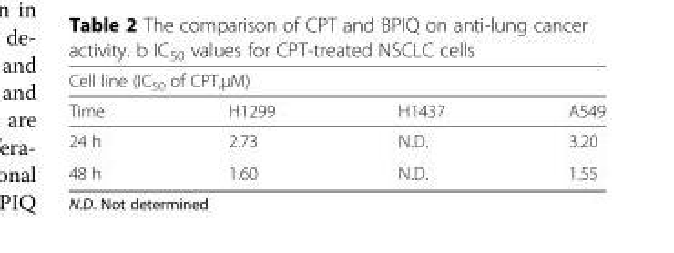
<table><thead><tr><td colspan="4">Cell line (IC<sub>50</sub> of CPT,μM)</td></tr><tr><td>Time</td><td>H1299</td><td>H1437</td><td>A549</td></tr></thead><tbody><tr><td>24 h</td><td>2.73</td><td>N.D.</td><td>3.20</td></tr><tr><td>48 h</td><td>1.60</td><td>N.D.</td><td>1.55</td></tr></tbody></table>